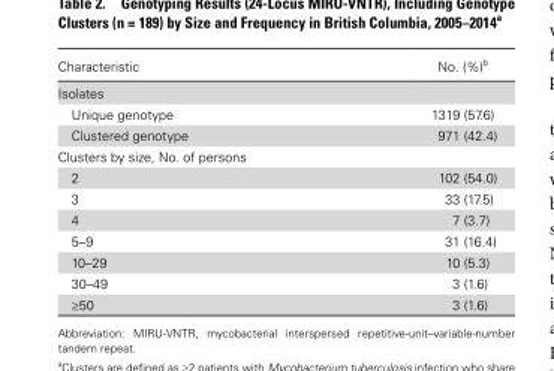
<table><thead><tr><td>Characteristic</td><td>No. (%)<sup>b</sup></td></tr></thead><tbody><tr><td colspan="2">Isolates</td></tr><tr><td>Unique genotype</td><td>1319 (57.6)</td></tr><tr><td>Clustered genotype</td><td>971 (42.4)</td></tr><tr><td colspan="2">Clusters by size, No. of persons</td></tr><tr><td>2</td><td>102 (54.0)</td></tr><tr><td>3</td><td>33 (17.5)</td></tr><tr><td>4</td><td>7 (3.7)</td></tr><tr><td>5–9</td><td>31 (16.4)</td></tr><tr><td>10–29</td><td>10 (5.3)</td></tr><tr><td>30–49</td><td>3 (1.6)</td></tr><tr><td>≥50</td><td>3 (1.6)</td></tr></tbody></table>